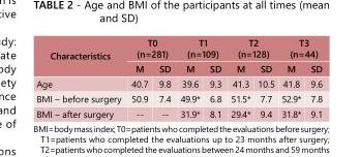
<table><tbody><tr><td rowspan="2">Characteristics</td><td colspan="2">T0 (n=281)</td><td colspan="2">T1 (n=109)</td><td colspan="2">T2 (n=128)</td><td colspan="2">T3 (n=44)</td></tr><tr><td>M</td><td>SD</td><td>M</td><td>SD</td><td>M</td><td>SD</td><td>M</td><td>SD</td></tr><tr><td>Age</td><td>40.7</td><td>9.8</td><td>39.6</td><td>9.3</td><td>41.3</td><td>10.5</td><td>41.8</td><td>9.6</td></tr><tr><td>BMI – before surgery</td><td>50.9</td><td>7.4</td><td>49.9*</td><td>6.8</td><td>51.5*</td><td>7.7</td><td>52.9*</td><td>7.8</td></tr><tr><td>BMI – after surgery</td><td>--</td><td>--</td><td>31.9*</td><td>8.1</td><td>29.4*</td><td>9.4</td><td>31.8*</td><td>9.1</td></tr></tbody></table>